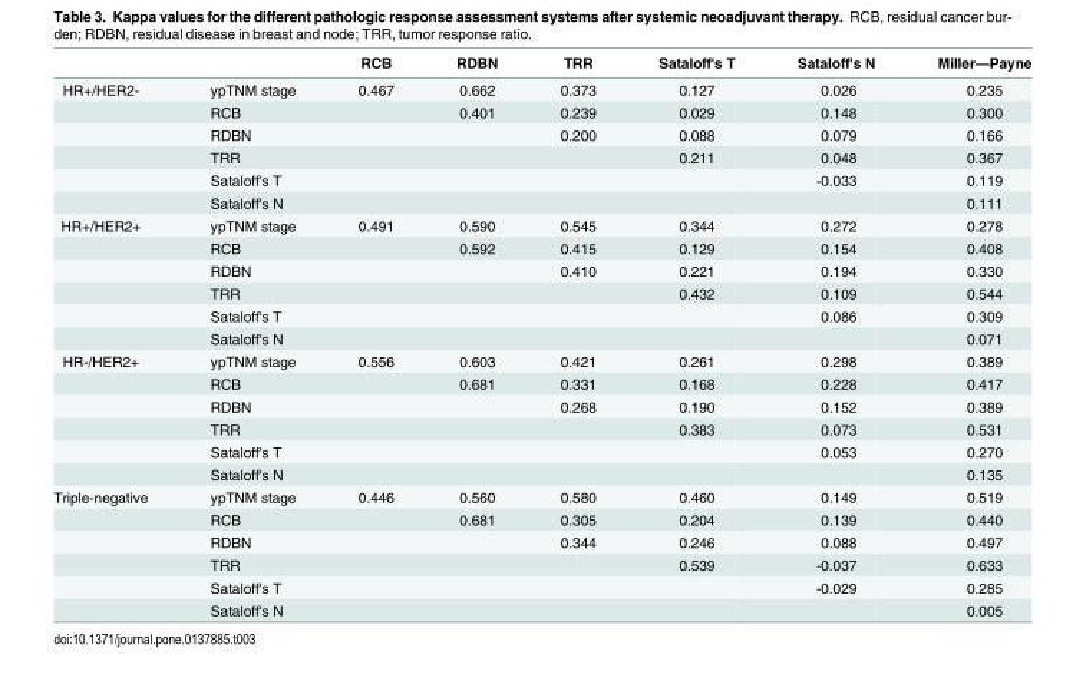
<table><thead><tr><td></td><td></td><td>RCB</td><td>RDBN</td><td>TRR</td><td>Sataloff&#x27;s T</td><td>Sataloff&#x27;s N</td><td>Miller—Payne</td></tr></thead><tbody><tr><td rowspan="6">HR+/HER2-</td><td>ypTNM stage</td><td>0.467</td><td>0.662</td><td>0.373</td><td>0.127</td><td>0.026</td><td>0.235</td></tr><tr><td>RCB</td><td></td><td>0.401</td><td>0.239</td><td>0.029</td><td>0.148</td><td>0.300</td></tr><tr><td>RDBN</td><td></td><td></td><td>0.200</td><td>0.088</td><td>0.079</td><td>0.166</td></tr><tr><td>TRR</td><td></td><td></td><td></td><td>0.211</td><td>0.048</td><td>0.367</td></tr><tr><td>Sataloff&#x27;s T</td><td></td><td></td><td></td><td></td><td>-0.033</td><td>0.119</td></tr><tr><td>Sataloff&#x27;s N</td><td></td><td></td><td></td><td></td><td></td><td>0.111</td></tr><tr><td rowspan="6">HR+/HER2+</td><td>ypTNM stage</td><td>0.491</td><td>0.590</td><td>0.545</td><td>0.344</td><td>0.272</td><td>0.278</td></tr><tr><td>RCB</td><td></td><td>0.592</td><td>0.415</td><td>0.129</td><td>0.154</td><td>0.408</td></tr><tr><td>RDBN</td><td></td><td></td><td>0.410</td><td>0.221</td><td>0.194</td><td>0.330</td></tr><tr><td>TRR</td><td></td><td></td><td></td><td>0.432</td><td>0.109</td><td>0.544</td></tr><tr><td>Sataloff&#x27;s T</td><td></td><td></td><td></td><td></td><td>0.086</td><td>0.309</td></tr><tr><td>Sataloff&#x27;s N</td><td></td><td></td><td></td><td></td><td></td><td>0.071</td></tr><tr><td rowspan="6">HR-/HER2+</td><td>ypTNM stage</td><td>0.556</td><td>0.603</td><td>0.421</td><td>0.261</td><td>0.298</td><td>0.389</td></tr><tr><td>RCB</td><td></td><td>0.681</td><td>0.331</td><td>0.168</td><td>0.228</td><td>0.417</td></tr><tr><td>RDBN</td><td></td><td></td><td>0.268</td><td>0.190</td><td>0.152</td><td>0.389</td></tr><tr><td>TRR</td><td></td><td></td><td></td><td>0.383</td><td>0.073</td><td>0.531</td></tr><tr><td>Sataloff&#x27;s T</td><td></td><td></td><td></td><td></td><td>0.053</td><td>0.270</td></tr><tr><td>Sataloff&#x27;s N</td><td></td><td></td><td></td><td></td><td></td><td>0.135</td></tr><tr><td rowspan="6">Triple-negative</td><td>ypTNM stage</td><td>0.446</td><td>0.560</td><td>0.580</td><td>0.460</td><td>0.149</td><td>0.519</td></tr><tr><td>RCB</td><td></td><td>0.681</td><td>0.305</td><td>0.204</td><td>0.139</td><td>0.440</td></tr><tr><td>RDBN</td><td></td><td></td><td>0.344</td><td>0.246</td><td>0.088</td><td>0.497</td></tr><tr><td>TRR</td><td></td><td></td><td></td><td>0.539</td><td>-0.037</td><td>0.633</td></tr><tr><td>Sataloff&#x27;s T</td><td></td><td></td><td></td><td></td><td>-0.029</td><td>0.285</td></tr><tr><td>Sataloff&#x27;s N</td><td></td><td></td><td></td><td></td><td></td><td>0.005</td></tr></tbody></table>